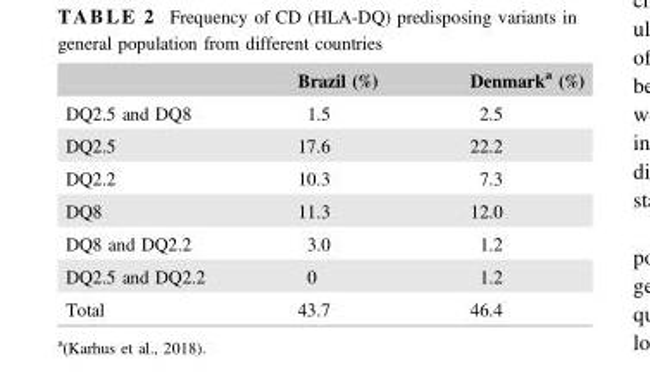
<table><thead><tr><td></td><td>Brazil (%)</td><td>Denmark<sup>a</sup> (%)</td></tr></thead><tbody><tr><td>DQ2.5 and DQ8</td><td>1.5</td><td>2.5</td></tr><tr><td>DQ2.5</td><td>17.6</td><td>22.2</td></tr><tr><td>DQ2.2</td><td>10.3</td><td>7.3</td></tr><tr><td>DQ8</td><td>11.3</td><td>12.0</td></tr><tr><td>DQ8 and DQ2.2</td><td>3.0</td><td>1.2</td></tr><tr><td>DQ2.5 and DQ2.2</td><td>0</td><td>1.2</td></tr><tr><td>Total</td><td>43.7</td><td>46.4</td></tr></tbody></table>